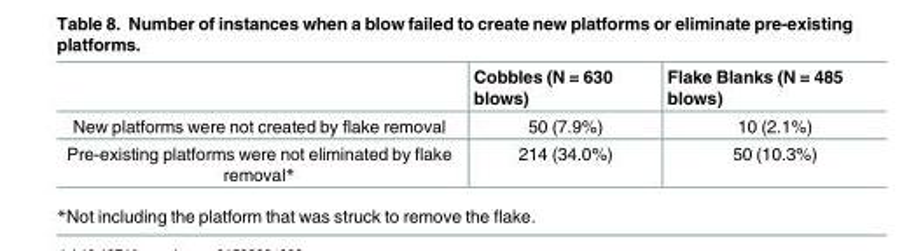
<table><thead><tr><td></td><td>Cobbles (N = 630 blows)</td><td>Flake Blanks (N = 485 blows)</td></tr></thead><tbody><tr><td>New platforms were not created by flake removal</td><td>50 (7.9%)</td><td>10 (2.1%)</td></tr><tr><td>Pre-existing platforms were not eliminated by flake removal*</td><td>214 (34.0%)</td><td>50 (10.3%)</td></tr></tbody></table>